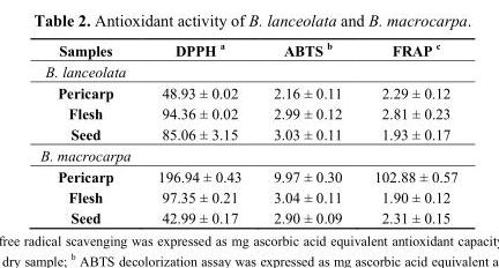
<table><thead><tr><td>Samples</td><td>DPPH <sup>a</sup></td><td>ABTS <sup>b</sup></td><td>FRAP <sup>c</sup></td></tr></thead><tbody><tr><td colspan="4">B. lanceolata</td></tr><tr><td>Pericarp</td><td>48.93 ± 0.02</td><td>2.16 ± 0.11</td><td>2.29 ± 0.12</td></tr><tr><td>Flesh</td><td>94.36 ± 0.02</td><td>2.99 ± 0.12</td><td>2.81 ± 0.23</td></tr><tr><td>Seed</td><td>85.06 ± 3.15</td><td>3.03 ± 0.11</td><td>1.93 ± 0.17</td></tr><tr><td colspan="4">B. macrocarpa</td></tr><tr><td>Pericarp</td><td>196.94 ± 0.43</td><td>9.97 ± 0.30</td><td>102.88 ± 0.57</td></tr><tr><td>Flesh</td><td>97.35 ± 0.21</td><td>3.04 ± 0.11</td><td>1.90 ± 0.12</td></tr><tr><td>Seed</td><td>42.99 ± 0.17</td><td>2.90 ± 0.09</td><td>2.31 ± 0.15</td></tr></tbody></table>